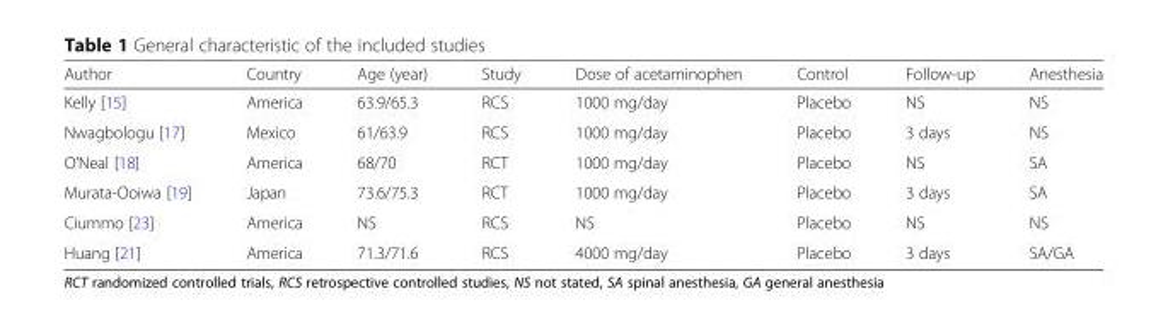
<table><thead><tr><td>Author</td><td>Country</td><td>Age (year)</td><td>Study</td><td>Dose of acetaminophen</td><td>Control</td><td>Follow-up</td><td>Anesthesia</td></tr></thead><tbody><tr><td>Kelly [15]</td><td>America</td><td>63.9/65.3</td><td>RCS</td><td>1000 mg/day</td><td>Placebo</td><td>NS</td><td>NS</td></tr><tr><td>Nwagbologu [17]</td><td>Mexico</td><td>61/63.9</td><td>RCS</td><td>1000 mg/day</td><td>Placebo</td><td>3 days</td><td>NS</td></tr><tr><td>O’Neal [18]</td><td>America</td><td>68/70</td><td>RCT</td><td>1000 mg/day</td><td>Placebo</td><td>NS</td><td>SA</td></tr><tr><td>Murata-Ooiwa [19]</td><td>Japan</td><td>73.6/75.3</td><td>RCT</td><td>1000 mg/day</td><td>Placebo</td><td>3 days</td><td>SA</td></tr><tr><td>Ciummo [23]</td><td>America</td><td>NS</td><td>RCS</td><td>NS</td><td>Placebo</td><td>NS</td><td>NS</td></tr><tr><td>Huang [21]</td><td>America</td><td>71.3/71.6</td><td>RCS</td><td>4000 mg/day</td><td>Placebo</td><td>3 days</td><td>SA/GA</td></tr></tbody></table>